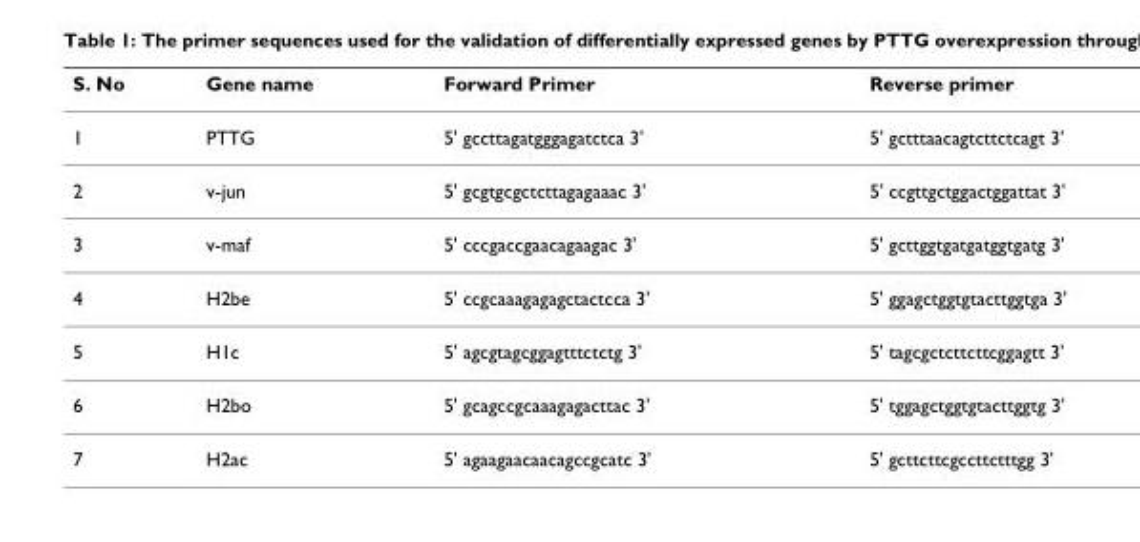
<table><thead><tr><td>S. No</td><td>Gene name</td><td>Forward Primer</td><td>Reverse primer</td></tr></thead><tbody><tr><td>1</td><td>PTTG</td><td>5&#x27; gccttagatgggagatctca 3&#x27;</td><td>5&#x27; gctttaacagtcttctcagt 3&#x27;</td></tr><tr><td>2</td><td>v-jun</td><td>5&#x27; gcgtgcgctcttagagaaac 3&#x27;</td><td>5&#x27; ccgttgctggactggattat 3&#x27;</td></tr><tr><td>3</td><td>v-maf</td><td>5&#x27; cccgaccgaacagaagac 3&#x27;</td><td>5&#x27; gcttggtgatgatggtgatg 3&#x27;</td></tr><tr><td>4</td><td>H2be</td><td>5&#x27; ccgcaaagagagctactcca 3&#x27;</td><td>5&#x27; ggagctggtgtacttggtga 3&#x27;</td></tr><tr><td>5</td><td>H1c</td><td>5&#x27; agcgtagcggagtttctctg 3&#x27;</td><td>5&#x27; tagcgctcttcttcggagtt 3&#x27;</td></tr><tr><td>6</td><td>H2bo</td><td>5&#x27; gcagccgcaaagagacttac 3&#x27;</td><td>5&#x27; tggagctggtgtacttggtg 3&#x27;</td></tr><tr><td>7</td><td>H2ac</td><td>5&#x27; agaagaacaacagccgcatc 3&#x27;</td><td>5&#x27; gcttcttcgccttctttgg 3&#x27;</td></tr></tbody></table>